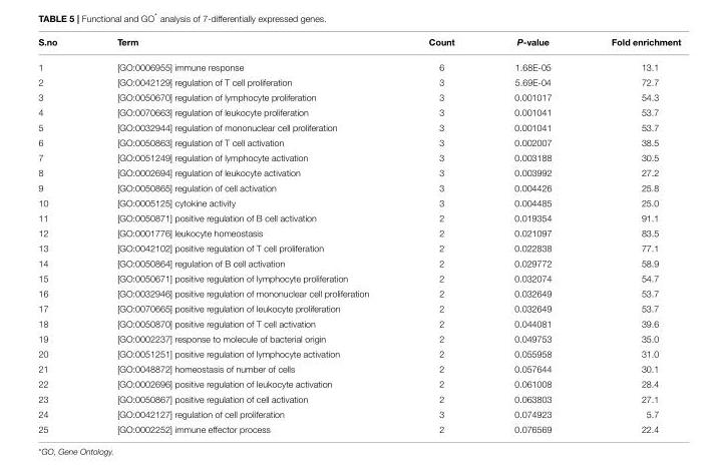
<table><thead><tr><td>S.no</td><td>Term</td><td>Count</td><td>P-value</td><td>Fold enrichment</td></tr></thead><tbody><tr><td>1</td><td>[GO:0006955] immune response</td><td>6</td><td>1.68E-05</td><td>13.1</td></tr><tr><td>2</td><td>[GO:0042129] regulation of T cell proliferation</td><td>3</td><td>5.69E-04</td><td>72.7</td></tr><tr><td>3</td><td>[GO:0050670] regulation of lymphocyte proliferation</td><td>3</td><td>0.001017</td><td>54.3</td></tr><tr><td>4</td><td>[GO:0070663] regulation of leukocyte proliferation</td><td>3</td><td>0.001041</td><td>53.7</td></tr><tr><td>5</td><td>[GO:0032944] regulation of mononuclear cell proliferation</td><td>3</td><td>0.001041</td><td>53.7</td></tr><tr><td>6</td><td>[GO:0050863] regulation of T cell activation</td><td>3</td><td>0.002007</td><td>38.5</td></tr><tr><td>7</td><td>[GO:0051249] regulation of lymphocyte activation</td><td>3</td><td>0.003188</td><td>30.5</td></tr><tr><td>8</td><td>[GO:0002694] regulation of leukocyte activation</td><td>3</td><td>0.003992</td><td>27.2</td></tr><tr><td>9</td><td>[GO:0050865] regulation of cell activation</td><td>3</td><td>0.004426</td><td>25.8</td></tr><tr><td>10</td><td>[GO:0005125] cytokine activity</td><td>3</td><td>0.004485</td><td>25.0</td></tr><tr><td>11</td><td>[GO:0050871] positive regulation of B cell activation</td><td>2</td><td>0.019354</td><td>91.1</td></tr><tr><td>12</td><td>[GO:0001776] leukocyte homeostasis</td><td>2</td><td>0.021097</td><td>83.5</td></tr><tr><td>13</td><td>[GO:0042102] positive regulation of T cell proliferation</td><td>2</td><td>0.022838</td><td>77.1</td></tr><tr><td>14</td><td>[GO:0050864] regulation of B cell activation</td><td>2</td><td>0.029772</td><td>58.9</td></tr><tr><td>15</td><td>[GO:0050671] positive regulation of lymphocyte proliferation</td><td>2</td><td>0.032074</td><td>54.7</td></tr><tr><td>16</td><td>[GO:0032946] positive regulation of mononuclear cell proliferation</td><td>2</td><td>0.032649</td><td>53.7</td></tr><tr><td>17</td><td>[GO:0070665] positive regulation of leukocyte proliferation</td><td>2</td><td>0.032649</td><td>53.7</td></tr><tr><td>18</td><td>[GO:0050870] positive regulation of T cell activation</td><td>2</td><td>0.044081</td><td>39.6</td></tr><tr><td>19</td><td>[GO:0002237] response to molecule of bacterial origin</td><td>2</td><td>0.049753</td><td>35.0</td></tr><tr><td>20</td><td>[GO:0051251] positive regulation of lymphocyte activation</td><td>2</td><td>0.055958</td><td>31.0</td></tr><tr><td>21</td><td>[GO:0048872] homeostasis of number of cells</td><td>2</td><td>0.057644</td><td>30.1</td></tr><tr><td>22</td><td>[GO:0002696] positive regulation of leukocyte activation</td><td>2</td><td>0.061008</td><td>28.4</td></tr><tr><td>23</td><td>[GO:0050867] positive regulation of cell activation</td><td>2</td><td>0.063803</td><td>27.1</td></tr><tr><td>24</td><td>[GO:0042127] regulation of cell proliferation</td><td>3</td><td>0.074923</td><td>5.7</td></tr><tr><td>25</td><td>[GO:0002252] immune effector process</td><td>2</td><td>0.076569</td><td>22.4</td></tr></tbody></table>